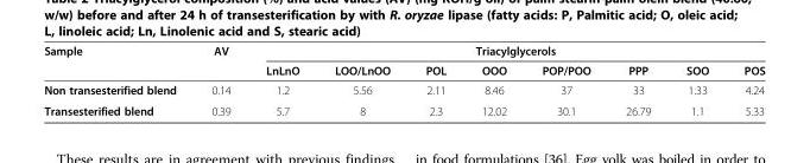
<table><thead><tr><td rowspan="2">Sample</td><td rowspan="2">AV</td><td colspan="8">Triacylglycerols</td></tr><tr><td>LnLnO</td><td>LOO/LnOO</td><td>POL</td><td>OOO</td><td>POP/POO</td><td>PPP</td><td>SOO</td><td>POS</td></tr></thead><tbody><tr><td>Non transesterified blend</td><td>0.14</td><td>1.2</td><td>5.56</td><td>2.11</td><td>8.46</td><td>37</td><td>33</td><td>1.33</td><td>4.24</td></tr><tr><td>Transesterified blend</td><td>0.39</td><td>5.7</td><td>8</td><td>2.3</td><td>12.02</td><td>30.1</td><td>26.79</td><td>1.1</td><td>5.33</td></tr></tbody></table>